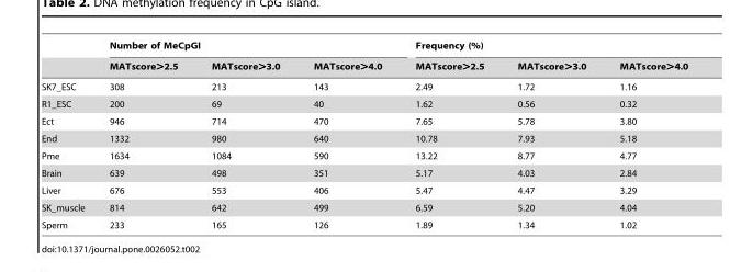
<table><thead><tr><td rowspan="2"></td><td colspan="3">Number of MeCpGI</td><td colspan="3">Frequency (%)</td></tr><tr><td>MATscore&gt;2.5</td><td>MATscore&gt;3.0</td><td>MATscore&gt;4.0</td><td>MATscore&gt;2.5</td><td>MATscore&gt;3.0</td><td>MATscore&gt;4.0</td></tr></thead><tbody><tr><td>SK7_ESC</td><td>308</td><td>213</td><td>143</td><td>2.49</td><td>1.72</td><td>1.16</td></tr><tr><td>R1_ESC</td><td>200</td><td>69</td><td>40</td><td>1.62</td><td>0.56</td><td>0.32</td></tr><tr><td>Ect</td><td>946</td><td>714</td><td>470</td><td>7.65</td><td>5.78</td><td>3.80</td></tr><tr><td>End</td><td>1332</td><td>980</td><td>640</td><td>10.78</td><td>7.93</td><td>5.18</td></tr><tr><td>Pme</td><td>1634</td><td>1084</td><td>590</td><td>13.22</td><td>8.77</td><td>4.77</td></tr><tr><td>Brain</td><td>639</td><td>498</td><td>351</td><td>5.17</td><td>4.03</td><td>2.84</td></tr><tr><td>Liver</td><td>676</td><td>553</td><td>406</td><td>5.47</td><td>4.47</td><td>3.29</td></tr><tr><td>SK_muscle</td><td>814</td><td>642</td><td>499</td><td>6.59</td><td>5.20</td><td>4.04</td></tr><tr><td>Sperm</td><td>233</td><td>165</td><td>126</td><td>1.89</td><td>1.34</td><td>1.02</td></tr></tbody></table>